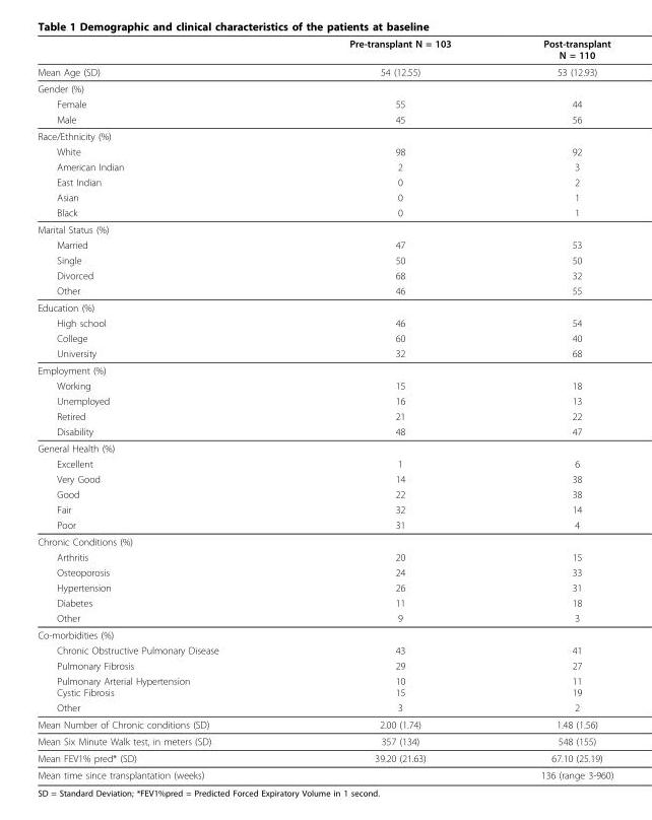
<table><thead><tr><td></td><td>Pre-transplant N = 103</td><td>Post-transplant N = 110</td></tr></thead><tbody><tr><td>Mean Age (SD)</td><td>54 (12.55)</td><td>53 (12.93)</td></tr><tr><td colspan="3">Gender (%)</td></tr><tr><td>Female</td><td>55</td><td>44</td></tr><tr><td>Male</td><td>45</td><td>56</td></tr><tr><td colspan="3">Race/Ethnicity (%)</td></tr><tr><td>White</td><td>98</td><td>92</td></tr><tr><td>American Indian</td><td>2</td><td>3</td></tr><tr><td>East Indian</td><td>0</td><td>2</td></tr><tr><td>Asian</td><td>0</td><td>1</td></tr><tr><td>Black</td><td>0</td><td>1</td></tr><tr><td colspan="3">Marital Status (%)</td></tr><tr><td>Married</td><td>47</td><td>53</td></tr><tr><td>Single</td><td>50</td><td>50</td></tr><tr><td>Divorced</td><td>68</td><td>32</td></tr><tr><td>Other</td><td>46</td><td>55</td></tr><tr><td colspan="3">Education (%)</td></tr><tr><td>High school</td><td>46</td><td>54</td></tr><tr><td>College</td><td>60</td><td>40</td></tr><tr><td>University</td><td>32</td><td>68</td></tr><tr><td colspan="3">Employment (%)</td></tr><tr><td>Working</td><td>15</td><td>18</td></tr><tr><td>Unemployed</td><td>16</td><td>13</td></tr><tr><td>Retired</td><td>21</td><td>22</td></tr><tr><td>Disability</td><td>48</td><td>47</td></tr><tr><td colspan="3">General Health (%)</td></tr><tr><td>Excellent</td><td>1</td><td>6</td></tr><tr><td>Very Good</td><td>14</td><td>38</td></tr><tr><td>Good</td><td>22</td><td>38</td></tr><tr><td>Fair</td><td>32</td><td>14</td></tr><tr><td>Poor</td><td>31</td><td>4</td></tr><tr><td colspan="3">Chronic Conditions (%)</td></tr><tr><td>Arthritis</td><td>20</td><td>15</td></tr><tr><td>Osteoporosis</td><td>24</td><td>33</td></tr><tr><td>Hypertension</td><td>26</td><td>31</td></tr><tr><td>Diabetes</td><td>11</td><td>18</td></tr><tr><td>Other</td><td>9</td><td>3</td></tr><tr><td colspan="3">Co-morbidities (%)</td></tr><tr><td>Chronic Obstructive Pulmonary Disease</td><td>43</td><td>41</td></tr><tr><td>Pulmonary Fibrosis</td><td>29</td><td>27</td></tr><tr><td>Pulmonary Arterial Hypertension Cystic Fibrosis</td><td>10 15</td><td>11 19</td></tr><tr><td>Other</td><td>3</td><td>2</td></tr><tr><td>Mean Number of Chronic conditions (SD)</td><td>2.00 (1.74)</td><td>1.48 (1.56)</td></tr><tr><td>Mean Six Minute Walk test, in meters (SD)</td><td>357 (134)</td><td>548 (155)</td></tr><tr><td>Mean FEV1% pred* (SD)</td><td>39.20 (21.63)</td><td>67.10 (25.19)</td></tr><tr><td>Mean time since transplantation (weeks)</td><td></td><td>136 (range 3-960)</td></tr></tbody></table>